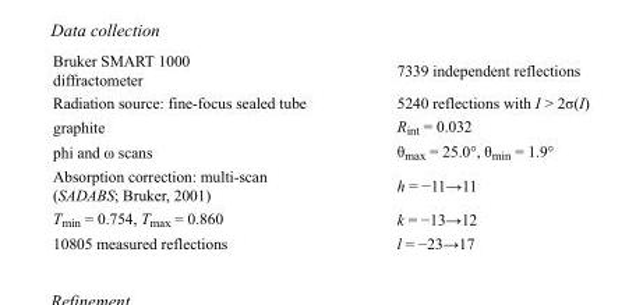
<table><tbody><tr><td>Bruker SMART 1000 diffractometer</td><td>7339 independent reflections</td></tr><tr><td>Radiation source: fine-focus sealed tube</td><td>5240 reflections with I &gt; 2σ(I)</td></tr><tr><td>graphite</td><td>R<sub>int</sub> = 0.032</td></tr><tr><td>phi and ω scans</td><td>θ<sub>max</sub> = 25.0°, θ<sub>min</sub> = 1.9°</td></tr><tr><td>Absorption correction: multi-scan (SADABS; Bruker, 2001)</td><td>h = −11→11</td></tr><tr><td>T<sub>min</sub> = 0.754, T<sub>max</sub> = 0.860</td><td>k = −13→12</td></tr><tr><td>10805 measured reflections</td><td>l = −23→17</td></tr></tbody></table>